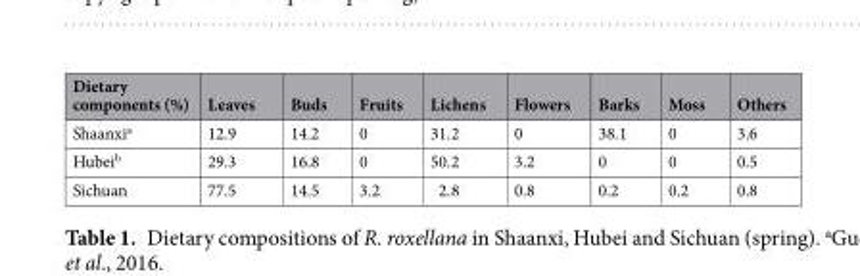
<table><thead><tr><td>Dietary components (%)</td><td>Leaves</td><td>Buds</td><td>Fruits</td><td>Lichens</td><td>Flowers</td><td>Barks</td><td>Moss</td><td>Others</td></tr></thead><tbody><tr><td>Shaanxi<sup>a</sup></td><td>12.9</td><td>14.2</td><td>0</td><td>31.2</td><td>0</td><td>38.1</td><td>0</td><td>3.6</td></tr><tr><td>Hubei<sup>b</sup></td><td>29.3</td><td>16.8</td><td>0</td><td>50.2</td><td>3.2</td><td>0</td><td>0</td><td>0.5</td></tr><tr><td>Sichuan</td><td>77.5</td><td>14.5</td><td>3.2</td><td>2.8</td><td>0.8</td><td>0.2</td><td>0.2</td><td>0.8</td></tr></tbody></table>